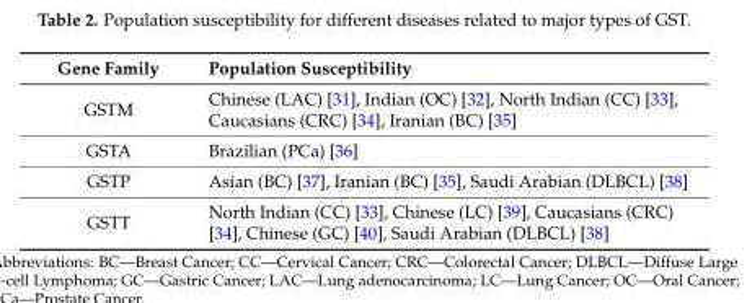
<table><thead><tr><td>Gene Family</td><td>Population Susceptibility</td></tr></thead><tbody><tr><td>GSTM</td><td>Chinese (LAC) [31], Indian (OC) [32], North Indian (CC) [33], Caucasians (CRC) [34], Iranian (BC) [35]</td></tr><tr><td>GSTA</td><td>Brazilian (PCa) [36]</td></tr><tr><td>GSTP</td><td>Asian (BC) [37], Iranian (BC) [35], Saudi Arabian (DLBCL) [38]</td></tr><tr><td>GSTT</td><td>North Indian (CC) [33], Chinese (LC) [39], Caucasians (CRC) [34], Chinese (GC) [40], Saudi Arabian (DLBCL) [38]</td></tr></tbody></table>